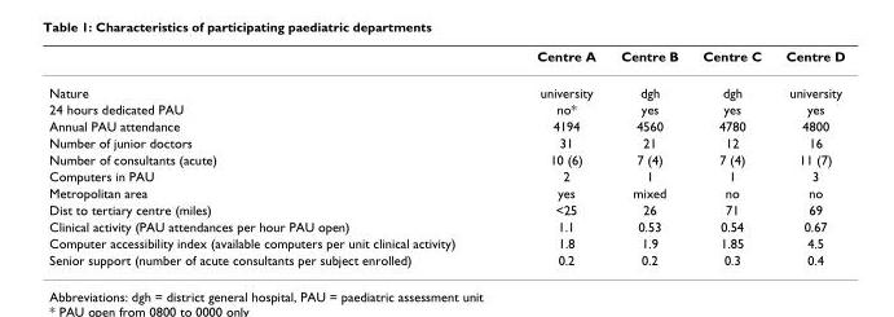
<table><thead><tr><td></td><td>Centre A</td><td>Centre B</td><td>Centre C</td><td>Centre D</td></tr></thead><tbody><tr><td>Nature</td><td>university</td><td>dgh</td><td>dgh</td><td>university</td></tr><tr><td>24 hours dedicated PAU</td><td>no*</td><td>yes</td><td>yes</td><td>yes</td></tr><tr><td>Annual PAU attendance</td><td>4194</td><td>4560</td><td>4780</td><td>4800</td></tr><tr><td>Number of junior doctors</td><td>31</td><td>21</td><td>12</td><td>16</td></tr><tr><td>Number of consultants (acute)</td><td>10 (6)</td><td>7 (4)</td><td>7 (4)</td><td>11 (7)</td></tr><tr><td>Computers in PAU</td><td>2</td><td>1</td><td>1</td><td>3</td></tr><tr><td>Metropolitan area</td><td>yes</td><td>mixed</td><td>no</td><td>no</td></tr><tr><td>Dist to tertiary centre (miles)</td><td>&lt;25</td><td>26</td><td>71</td><td>69</td></tr><tr><td>Clinical activity (PAU attendances per hour PAU open)</td><td>1.1</td><td>0.53</td><td>0.54</td><td>0.67</td></tr><tr><td>Computer accessibility index (available computers per unit clinical activity)</td><td>1.8</td><td>1.9</td><td>1.85</td><td>4.5</td></tr><tr><td>Senior support (number of acute consultants per subject enrolled)</td><td>0.2</td><td>0.2</td><td>0.3</td><td>0.4</td></tr></tbody></table>